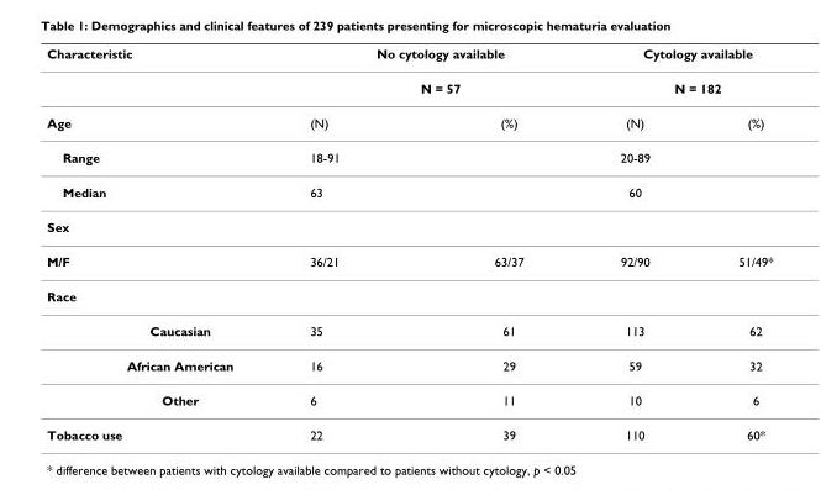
<table><thead><tr><td rowspan="3">Characteristic Age</td><td rowspan="2" colspan="2">No cytology available N = 57</td><td rowspan="2" colspan="2">Cytology available N = 182</td></tr><tr></tr><tr><td>(N)</td><td>(%)</td><td>(N)</td><td>(%)</td></tr></thead><tbody><tr><td>Range</td><td>18-91</td><td></td><td>20-89</td><td></td></tr><tr><td>Median</td><td>63</td><td></td><td>60</td><td></td></tr><tr><td colspan="5">Sex</td></tr><tr><td>M/F</td><td>36/21</td><td>63/37</td><td>92/90</td><td>51/49*</td></tr><tr><td colspan="5">Race</td></tr><tr><td>Caucasian</td><td>35</td><td>61</td><td>113</td><td>62</td></tr><tr><td>African American</td><td>16</td><td>29</td><td>59</td><td>32</td></tr><tr><td>Other</td><td>6</td><td>11</td><td>10</td><td>6</td></tr><tr><td>Tobacco use</td><td>22</td><td>39</td><td>110</td><td>60*</td></tr></tbody></table>